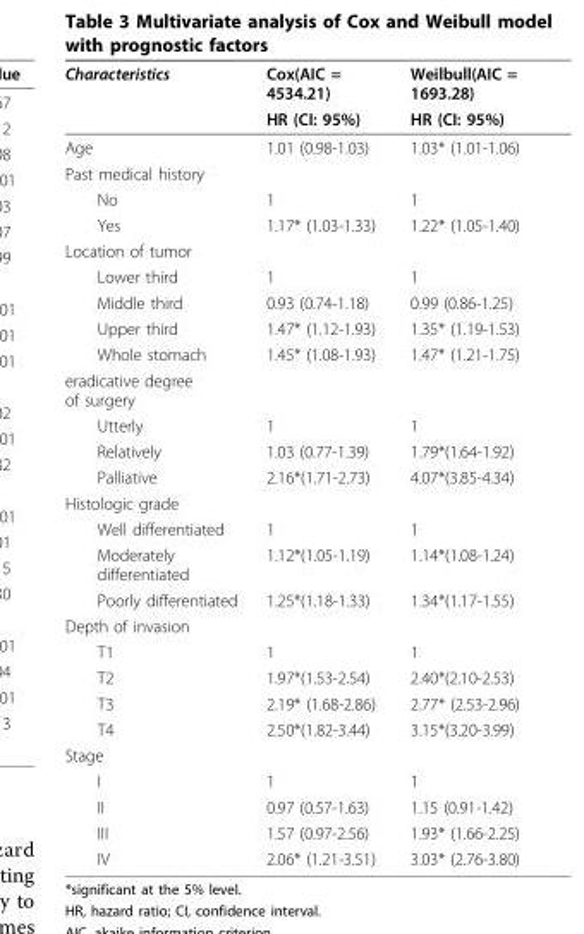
<table><thead><tr><td rowspan="2">Characteristics</td><td rowspan="2">Cox(AIC = 4534.21) HR (CI: 95%)</td><td rowspan="2">Weilbull(AIC = 1693.28) HR (CI: 95%)</td></tr><tr></tr></thead><tbody><tr><td>Age</td><td>1.01 (0.98-1.03)</td><td>1.03* (1.01-1.06)</td></tr><tr><td colspan="3">Past medical history</td></tr><tr><td>No</td><td>1</td><td>1</td></tr><tr><td>Yes</td><td>1.17* (1.03-1.33)</td><td>1.22* (1.05-1.40)</td></tr><tr><td colspan="3">Location of tumor</td></tr><tr><td>Lower third</td><td>1</td><td>1</td></tr><tr><td>Middle third</td><td>0.93 (0.74-1.18)</td><td>0.99 (0.86-1.25)</td></tr><tr><td>Upper third</td><td>1.47* (1.12-1.93)</td><td>1.35* (1.19-1.53)</td></tr><tr><td>Whole stomach</td><td>1.45* (1.08-1.93)</td><td>1.47* (1.21-1.75)</td></tr><tr><td colspan="3">eradicative degree of surgery</td></tr><tr><td>Utterly</td><td>1</td><td>1</td></tr><tr><td>Relatively</td><td>1.03 (0.77-1.39)</td><td>1.79*(1.64-1.92)</td></tr><tr><td>Palliative</td><td>2.16*(1.71-2.73)</td><td>4.07*(3.85-4.34)</td></tr><tr><td colspan="3">Histologic grade</td></tr><tr><td>Well differentiated</td><td>1</td><td>1</td></tr><tr><td>Moderately differentiated</td><td>1.12*(1.05-1.19)</td><td>1.14*(1.08-1.24)</td></tr><tr><td>Poorly differentiated</td><td>1.25*(1.18-1.33)</td><td>1.34*(1.17-1.55)</td></tr><tr><td colspan="3">Depth of invasion</td></tr><tr><td>T1</td><td>1</td><td>1</td></tr><tr><td>T2</td><td>1.97*(1.53-2.54)</td><td>2.40*(2.10-2.53)</td></tr><tr><td>T3</td><td>2.19* (1.68-2.86)</td><td>2.77* (2.53-2.96)</td></tr><tr><td>T4</td><td>2.50*(1.82-3.44)</td><td>3.15*(3.20-3.99)</td></tr><tr><td colspan="3">Stage</td></tr><tr><td>I</td><td>1</td><td>1</td></tr><tr><td>II</td><td>0.97 (0.57-1.63)</td><td>1.15 (0.91-1.42)</td></tr><tr><td>III</td><td>1.57 (0.97-2.56)</td><td>1.93* (1.66-2.25)</td></tr><tr><td>IV</td><td>2.06* (1.21-3.51)</td><td>3.03* (2.76-3.80)</td></tr></tbody></table>